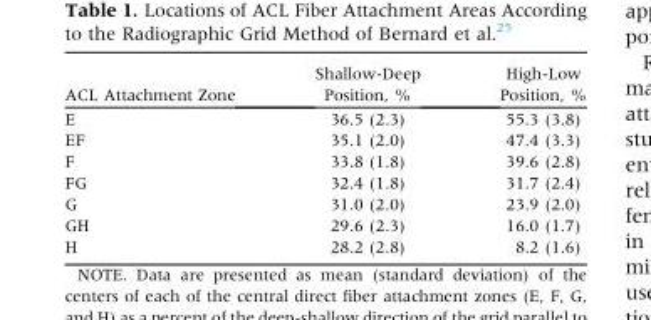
<table><thead><tr><td>ACL Attachment Zone</td><td>Shallow-Deep Position, %</td><td>High-Low Position, %</td></tr></thead><tbody><tr><td>E</td><td>36.5 (2.3)</td><td>55.3 (3.8)</td></tr><tr><td>EF</td><td>35.1 (2.0)</td><td>47.4 (3.3)</td></tr><tr><td>F</td><td>33.8 (1.8)</td><td>39.6 (2.8)</td></tr><tr><td>FG</td><td>32.4 (1.8)</td><td>31.7 (2.4)</td></tr><tr><td>G</td><td>31.0 (2.0)</td><td>23.9 (2.0)</td></tr><tr><td>GH</td><td>29.6 (2.3)</td><td>16.0 (1.7)</td></tr><tr><td>H</td><td>28.2 (2.8)</td><td>8.2 (1.6)</td></tr></tbody></table>